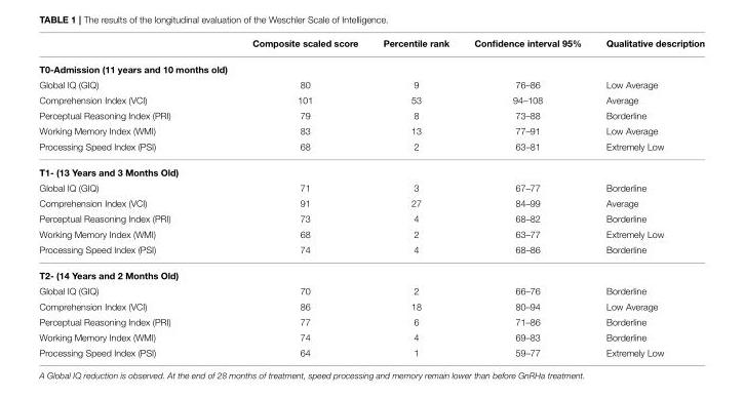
<table><thead><tr><td></td><td>Composite scaled score</td><td>Percentile rank</td><td>Confidence interval 95%</td><td>Qualitative description</td></tr></thead><tbody><tr><td colspan="5">T0-Admission (11 years and 10 months old)</td></tr><tr><td>Global IQ (GIQ)</td><td>80</td><td>9</td><td>76–86</td><td>Low Average</td></tr><tr><td>Comprehension Index (VCI)</td><td>101</td><td>53</td><td>94–108</td><td>Average</td></tr><tr><td>Perceptual Reasoning Index (PRI)</td><td>79</td><td>8</td><td>73–88</td><td>Borderline</td></tr><tr><td>Working Memory Index (WMI)</td><td>83</td><td>13</td><td>77–91</td><td>Low Average</td></tr><tr><td>Processing Speed Index (PSI)</td><td>68</td><td>2</td><td>63–81</td><td>Extremely Low</td></tr><tr><td colspan="5">T1- (13 Years and 3 Months Old)</td></tr><tr><td>Global IQ (GIQ)</td><td>71</td><td>3</td><td>67–77</td><td>Borderline</td></tr><tr><td>Comprehension Index (VCI)</td><td>91</td><td>27</td><td>84–99</td><td>Average</td></tr><tr><td>Perceptual Reasoning Index (PRI)</td><td>73</td><td>4</td><td>68–82</td><td>Borderline</td></tr><tr><td>Working Memory Index (WMI)</td><td>68</td><td>2</td><td>63–77</td><td>Extremely Low</td></tr><tr><td>Processing Speed Index (PSI)</td><td>74</td><td>4</td><td>68–86</td><td>Borderline</td></tr><tr><td colspan="5">T2- (14 Years and 2 Months Old)</td></tr><tr><td>Global IQ (GIQ)</td><td>70</td><td>2</td><td>66–76</td><td>Borderline</td></tr><tr><td>Comprehension Index (VCI)</td><td>86</td><td>18</td><td>80–94</td><td>Low Average</td></tr><tr><td>Perceptual Reasoning Index (PRI)</td><td>77</td><td>6</td><td>71–86</td><td>Borderline</td></tr><tr><td>Working Memory Index (WMI)</td><td>74</td><td>4</td><td>69–83</td><td>Borderline</td></tr><tr><td>Processing Speed Index (PSI)</td><td>64</td><td>1</td><td>59–77</td><td>Extremely Low</td></tr></tbody></table>